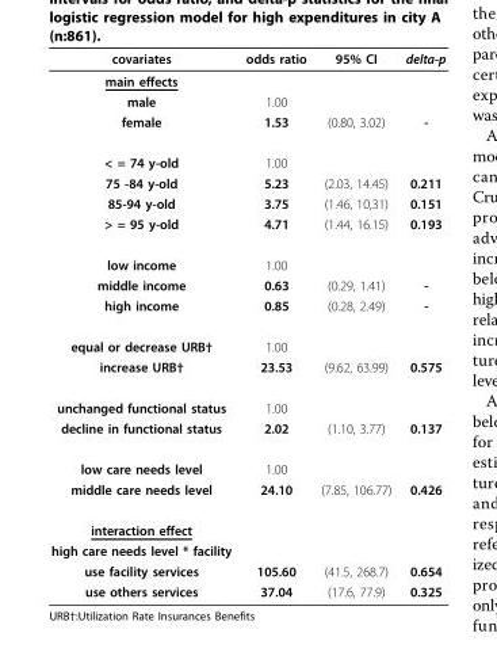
<table><thead><tr><td>covariates</td><td>odds ratio</td><td>95% CI</td><td>delta-p</td></tr></thead><tbody><tr><td colspan="4">main effects</td></tr><tr><td>male</td><td>1.00</td><td></td><td></td></tr><tr><td>female</td><td>1.53</td><td>(0.80, 3.02)</td><td>-</td></tr><tr><td>&lt; = 74 y-old</td><td>1.00</td><td></td><td></td></tr><tr><td>75 -84 y-old</td><td>5.23</td><td>(2.03, 14.45)</td><td>0.211</td></tr><tr><td>85-94 y-old</td><td>3.75</td><td>(1.46, 10,31)</td><td>0.151</td></tr><tr><td>&gt; = 95 y-old</td><td>4.71</td><td>(1.44, 16.15)</td><td>0.193</td></tr><tr><td>low income</td><td>1.00</td><td></td><td></td></tr><tr><td>middle income</td><td>0.63</td><td>(0.29, 1.41)</td><td>-</td></tr><tr><td>high income</td><td>0.85</td><td>(0.28, 2.49)</td><td>-</td></tr><tr><td>equal or decrease URB†</td><td>1.00</td><td></td><td></td></tr><tr><td>increase URB†</td><td>23.53</td><td>(9.62, 63.99)</td><td>0.575</td></tr><tr><td>unchanged functional status</td><td>1.00</td><td></td><td></td></tr><tr><td>decline in functional status</td><td>2.02</td><td>(1.10, 3.77)</td><td>0.137</td></tr><tr><td>low care needs level</td><td>1.00</td><td></td><td></td></tr><tr><td>middle care needs level</td><td>24.10</td><td>(7.85, 106.77)</td><td>0.426</td></tr><tr><td colspan="4">interaction effect</td></tr><tr><td colspan="4">high care needs level * facility</td></tr><tr><td>use facility services</td><td>105.60</td><td>(41.5, 268.7)</td><td>0.654</td></tr><tr><td>use others services</td><td>37.04</td><td>(17.6, 77.9)</td><td>0.325</td></tr></tbody></table>